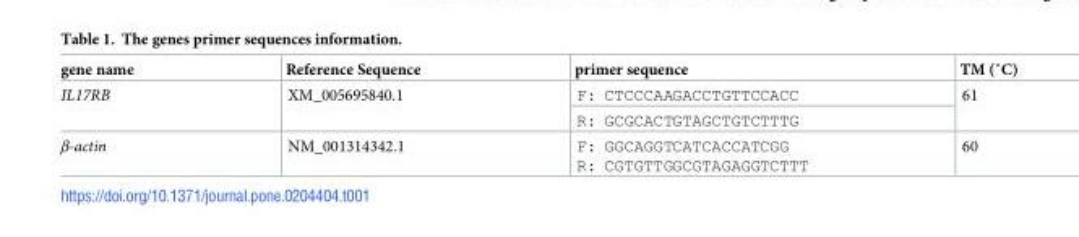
<table><thead><tr><td>gene name</td><td>Reference Sequence</td><td>primer sequence</td><td>TM (˚C)</td></tr></thead><tbody><tr><td rowspan="2">IL17RB</td><td rowspan="2">XM_005695840.1</td><td>F: CTCCCAAGACCTGTTCCACC</td><td rowspan="2">61</td></tr><tr><td>R: GCGCACTGTAGCTGTCTTTG</td></tr><tr><td>β-actin</td><td>NM_001314342.1</td><td>F: GGCAGGTCATCACCATCGG R: CGTGTTGGCGTAGAGGTCTTT</td><td>60</td></tr></tbody></table>